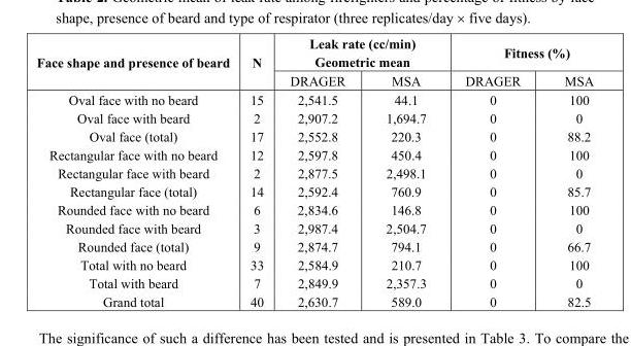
<table><thead><tr><td rowspan="3">Face shape and presence of beard</td><td rowspan="3">N</td><td rowspan="2" colspan="2">Leak rate (cc/min) Geometric mean</td><td rowspan="2" colspan="2">Fitness (%)</td></tr><tr></tr><tr><td>DRAGER</td><td>MSA</td><td>DRAGER</td><td>MSA</td></tr></thead><tbody><tr><td>Oval face with no beard</td><td>15</td><td>2,541.5</td><td>44.1</td><td>0</td><td>100</td></tr><tr><td>Oval face with beard</td><td>2</td><td>2,907.2</td><td>1,694.7</td><td>0</td><td>0</td></tr><tr><td>Oval face (total)</td><td>17</td><td>2,552.8</td><td>220.3</td><td>0</td><td>88.2</td></tr><tr><td>Rectangular face with no beard</td><td>12</td><td>2,597.8</td><td>450.4</td><td>0</td><td>100</td></tr><tr><td>Rectangular face with beard</td><td>2</td><td>2,877.5</td><td>2,498.1</td><td>0</td><td>0</td></tr><tr><td>Rectangular face (total)</td><td>14</td><td>2,592.4</td><td>760.9</td><td>0</td><td>85.7</td></tr><tr><td>Rounded face with no beard</td><td>6</td><td>2,834.6</td><td>146.8</td><td>0</td><td>100</td></tr><tr><td>Rounded face with beard</td><td>3</td><td>2,987.4</td><td>2,504.7</td><td>0</td><td>0</td></tr><tr><td>Rounded face (total)</td><td>9</td><td>2,874.7</td><td>794.1</td><td>0</td><td>66.7</td></tr><tr><td>Total with no beard</td><td>33</td><td>2,584.9</td><td>210.7</td><td>0</td><td>100</td></tr><tr><td>Total with beard</td><td>7</td><td>2,849.9</td><td>2,357.3</td><td>0</td><td>0</td></tr><tr><td>Grand total</td><td>40</td><td>2,630.7</td><td>589.0</td><td>0</td><td>82.5</td></tr></tbody></table>